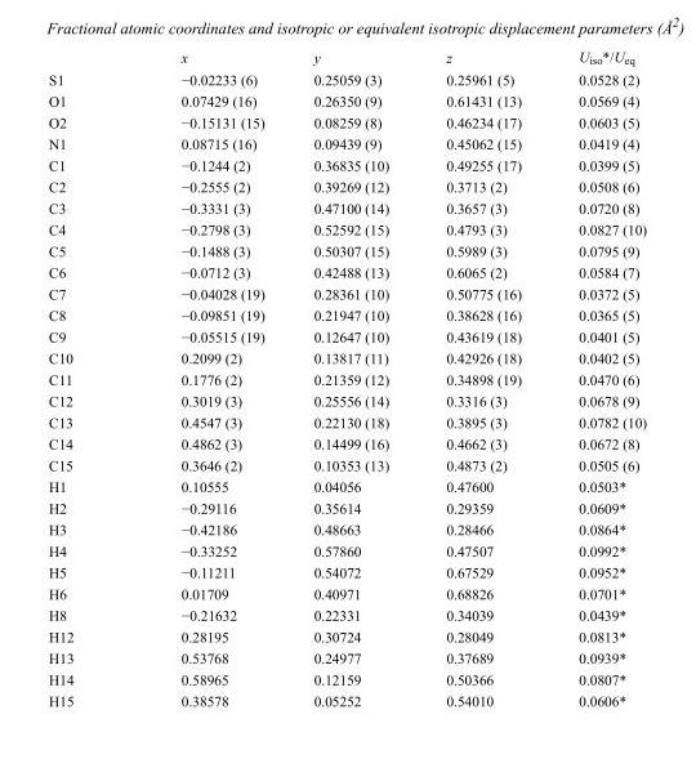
<table><thead><tr><td></td><td>x</td><td>y</td><td>z</td><td>U<sub>iso</sub>*/U<sub>eq</sub></td></tr></thead><tbody><tr><td>S1</td><td>−0.02233 (6)</td><td>0.25059 (3)</td><td>0.25961 (5)</td><td>0.0528 (2)</td></tr><tr><td>O1</td><td>0.07429 (16)</td><td>0.26350 (9)</td><td>0.61431 (13)</td><td>0.0569 (4)</td></tr><tr><td>O2</td><td>−0.15131 (15)</td><td>0.08259 (8)</td><td>0.46234 (17)</td><td>0.0603 (5)</td></tr><tr><td>N1</td><td>0.08715 (16)</td><td>0.09439 (9)</td><td>0.45062 (15)</td><td>0.0419 (4)</td></tr><tr><td>C1</td><td>−0.1244 (2)</td><td>0.36835 (10)</td><td>0.49255 (17)</td><td>0.0399 (5)</td></tr><tr><td>C2</td><td>−0.2555 (2)</td><td>0.39269 (12)</td><td>0.3713 (2)</td><td>0.0508 (6)</td></tr><tr><td>C3</td><td>−0.3331 (3)</td><td>0.47100 (14)</td><td>0.3657 (3)</td><td>0.0720 (8)</td></tr><tr><td>C4</td><td>−0.2798 (3)</td><td>0.52592 (15)</td><td>0.4793 (3)</td><td>0.0827 (10)</td></tr><tr><td>C5</td><td>−0.1488 (3)</td><td>0.50307 (15)</td><td>0.5989 (3)</td><td>0.0795 (9)</td></tr><tr><td>C6</td><td>−0.0712 (3)</td><td>0.42488 (13)</td><td>0.6065 (2)</td><td>0.0584 (7)</td></tr><tr><td>C7</td><td>−0.04028 (19)</td><td>0.28361 (10)</td><td>0.50775 (16)</td><td>0.0372 (5)</td></tr><tr><td>C8</td><td>−0.09851 (19)</td><td>0.21947 (10)</td><td>0.38628 (16)</td><td>0.0365 (5)</td></tr><tr><td>C9</td><td>−0.05515 (19)</td><td>0.12647 (10)</td><td>0.43619 (18)</td><td>0.0401 (5)</td></tr><tr><td>C10</td><td>0.2099 (2)</td><td>0.13817 (11)</td><td>0.42926 (18)</td><td>0.0402 (5)</td></tr><tr><td>C11</td><td>0.1776 (2)</td><td>0.21359 (12)</td><td>0.34898 (19)</td><td>0.0470 (6)</td></tr><tr><td>C12</td><td>0.3019 (3)</td><td>0.25556 (14)</td><td>0.3316 (3)</td><td>0.0678 (9)</td></tr><tr><td>C13</td><td>0.4547 (3)</td><td>0.22130 (18)</td><td>0.3895 (3)</td><td>0.0782 (10)</td></tr><tr><td>C14</td><td>0.4862 (3)</td><td>0.14499 (16)</td><td>0.4662 (3)</td><td>0.0672 (8)</td></tr><tr><td>C15</td><td>0.3646 (2)</td><td>0.10353 (13)</td><td>0.4873 (2)</td><td>0.0505 (6)</td></tr><tr><td>H1</td><td>0.10555</td><td>0.04056</td><td>0.47600</td><td>0.0503*</td></tr><tr><td>H2</td><td>−0.29116</td><td>0.35614</td><td>0.29359</td><td>0.0609*</td></tr><tr><td>H3</td><td>−0.42186</td><td>0.48663</td><td>0.28466</td><td>0.0864*</td></tr><tr><td>H4</td><td>−0.33252</td><td>0.57860</td><td>0.47507</td><td>0.0992*</td></tr><tr><td>H5</td><td>−0.11211</td><td>0.54072</td><td>0.67529</td><td>0.0952*</td></tr><tr><td>H6</td><td>0.01709</td><td>0.40971</td><td>0.68826</td><td>0.0701*</td></tr><tr><td>H8</td><td>−0.21632</td><td>0.22331</td><td>0.34039</td><td>0.0439*</td></tr><tr><td>H12</td><td>0.28195</td><td>0.30724</td><td>0.28049</td><td>0.0813*</td></tr><tr><td>H13</td><td>0.53768</td><td>0.24977</td><td>0.37689</td><td>0.0939*</td></tr><tr><td>H14</td><td>0.58965</td><td>0.12159</td><td>0.50366</td><td>0.0807*</td></tr><tr><td>H15</td><td>0.38578</td><td>0.05252</td><td>0.54010</td><td>0.0606*</td></tr></tbody></table>